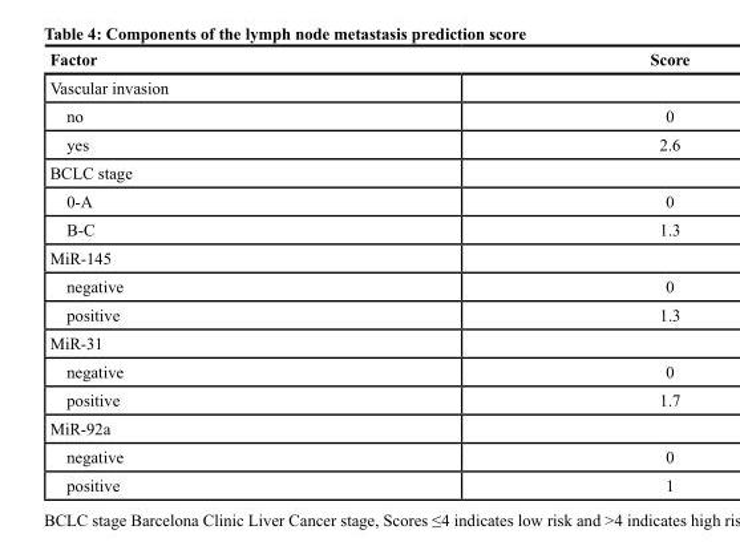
<table><thead><tr><td>Factor</td><td>Score</td></tr></thead><tbody><tr><td colspan="2">Vascular invasion</td></tr><tr><td>no</td><td>0</td></tr><tr><td>yes</td><td>2.6</td></tr><tr><td colspan="2">BCLC stage</td></tr><tr><td>0-A</td><td>0</td></tr><tr><td>B-C</td><td>1.3</td></tr><tr><td colspan="2">MiR-145</td></tr><tr><td>negative</td><td>0</td></tr><tr><td>positive</td><td>1.3</td></tr><tr><td colspan="2">MiR-31</td></tr><tr><td>negative</td><td>0</td></tr><tr><td>positive</td><td>1.7</td></tr><tr><td colspan="2">MiR-92a</td></tr><tr><td>negative</td><td>0</td></tr><tr><td>positive</td><td>1</td></tr></tbody></table>